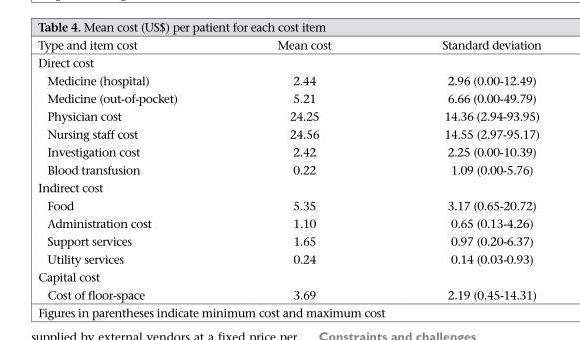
<table><thead><tr><td>Type and item cost</td><td>Mean cost</td><td>Standard deviation</td></tr></thead><tbody><tr><td colspan="3">Direct cost</td></tr><tr><td>Medicine (hospital)</td><td>2.44</td><td>2.96 (0.00-12.49)</td></tr><tr><td>Medicine (out-of-pocket)</td><td>5.21</td><td>6.66 (0.00-49.79)</td></tr><tr><td>Physician cost</td><td>24.25</td><td>14.36 (2.94-93.95)</td></tr><tr><td>Nursing staff cost</td><td>24.56</td><td>14.55 (2.97-95.17)</td></tr><tr><td>Investigation cost</td><td>2.42</td><td>2.25 (0.00-10.39)</td></tr><tr><td>Blood transfusion</td><td>0.22</td><td>1.09 (0.00-5.76)</td></tr><tr><td colspan="3">Indirect cost</td></tr><tr><td>Food</td><td>5.35</td><td>3.17 (0.65-20.72)</td></tr><tr><td>Administration cost</td><td>1.10</td><td>0.65 (0.13-4.26)</td></tr><tr><td>Support services</td><td>1.65</td><td>0.97 (0.20-6.37)</td></tr><tr><td>Utility services</td><td>0.24</td><td>0.14 (0.03-0.93)</td></tr><tr><td colspan="3">Capital cost</td></tr><tr><td>Cost of floor-space</td><td>3.69</td><td>2.19 (0.45-14.31)</td></tr></tbody></table>